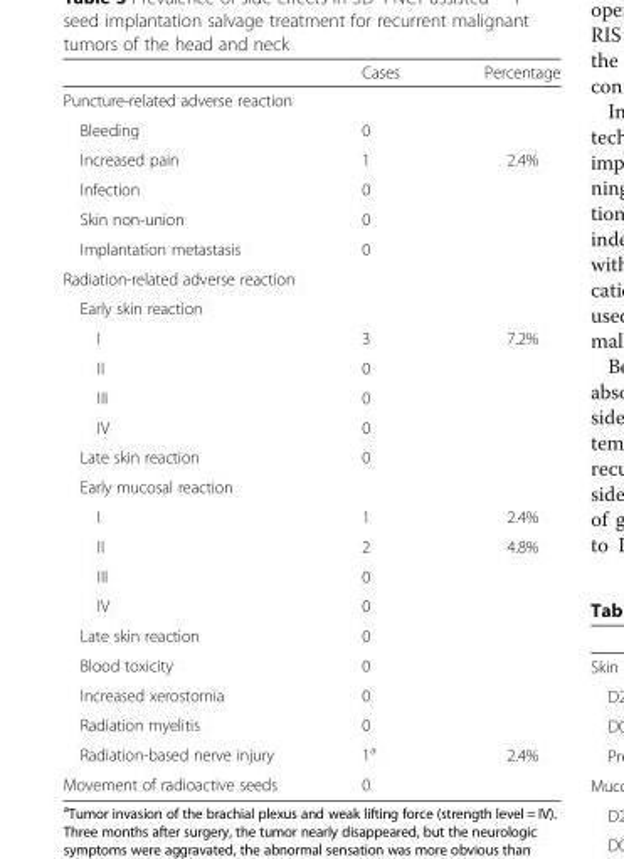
<table><thead><tr><td></td><td>Cases</td><td>Percentage</td></tr></thead><tbody><tr><td colspan="3">Puncture-related adverse reaction</td></tr><tr><td>Bleeding</td><td>0</td><td></td></tr><tr><td>Increased pain</td><td>1</td><td>2.4%</td></tr><tr><td>Infection</td><td>0</td><td></td></tr><tr><td>Skin non-union</td><td>0</td><td></td></tr><tr><td>Implantation metastasis</td><td>0</td><td></td></tr><tr><td colspan="3">Radiation-related adverse reaction</td></tr><tr><td colspan="3">Early skin reaction</td></tr><tr><td>I</td><td>3</td><td>7.2%</td></tr><tr><td>II</td><td>0</td><td></td></tr><tr><td>III</td><td>0</td><td></td></tr><tr><td>IV</td><td>0</td><td></td></tr><tr><td>Late skin reaction</td><td>0</td><td></td></tr><tr><td colspan="3">Early mucosal reaction</td></tr><tr><td>I</td><td>1</td><td>2.4%</td></tr><tr><td>II</td><td>2</td><td>4.8%</td></tr><tr><td>III</td><td>0</td><td></td></tr><tr><td>IV</td><td>0</td><td></td></tr><tr><td>Late skin reaction</td><td>0</td><td></td></tr><tr><td>Blood toxicity</td><td>0</td><td></td></tr><tr><td>Increased xerostomia</td><td>0</td><td></td></tr><tr><td>Radiation myelitis</td><td>0</td><td></td></tr><tr><td>Radiation-based nerve injury</td><td>1<sup>a</sup></td><td>2.4%</td></tr><tr><td>Movement of radioactive seeds</td><td>0</td><td></td></tr></tbody></table>